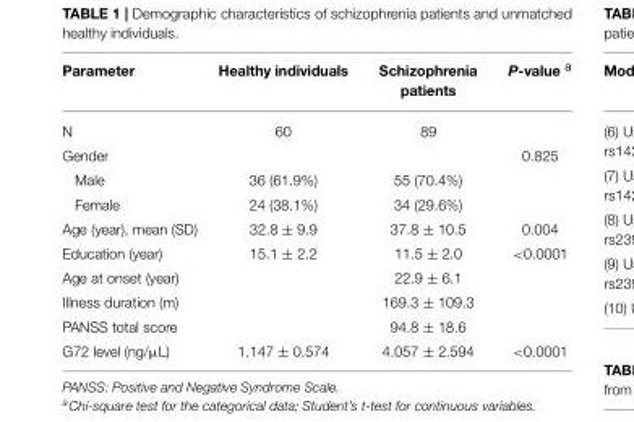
<table><thead><tr><td>Parameter</td><td>Healthy individuals</td><td>Schizophrenia patients</td><td>P-value <sup>a</sup></td></tr></thead><tbody><tr><td>N</td><td>60</td><td>89</td><td></td></tr><tr><td>Gender</td><td></td><td></td><td>0.825</td></tr><tr><td>Male</td><td>36 (61.9%)</td><td>55 (70.4%)</td><td></td></tr><tr><td>Female</td><td>24 (38.1%)</td><td>34 (29.6%)</td><td></td></tr><tr><td>Age (year), mean (SD)</td><td>32.8 ± 9.9</td><td>37.8 ± 10.5</td><td>0.004</td></tr><tr><td>Education (year)</td><td>15.1 ± 2.2</td><td>11.5 ± 2.0</td><td>&lt;0.0001</td></tr><tr><td>Age at onset (year)</td><td></td><td>22.9 ± 6.1</td><td></td></tr><tr><td>Illness duration (m)</td><td></td><td>169.3 ± 109.3</td><td></td></tr><tr><td>PANSS total score</td><td></td><td>94.8 ± 18.6</td><td></td></tr><tr><td>G72 level (ng/µL)</td><td>1.147 ± 0.574</td><td>4.057 ± 2.594</td><td>&lt;0.0001</td></tr></tbody></table>